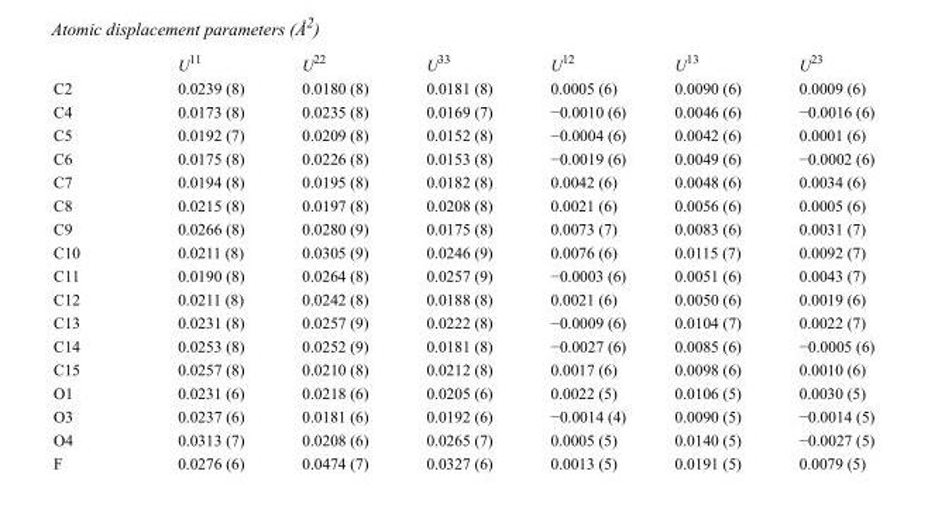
<table><thead><tr><td></td><td>U<sup>11</sup></td><td>U<sup>22</sup></td><td>U<sup>33</sup></td><td>U<sup>12</sup></td><td>U<sup>13</sup></td><td>U<sup>23</sup></td></tr></thead><tbody><tr><td>C2</td><td>0.0239 (8)</td><td>0.0180 (8)</td><td>0.0181 (8)</td><td>0.0005 (6)</td><td>0.0090 (6)</td><td>0.0009 (6)</td></tr><tr><td>C4</td><td>0.0173 (8)</td><td>0.0235 (8)</td><td>0.0169 (7)</td><td>−0.0010 (6)</td><td>0.0046 (6)</td><td>−0.0016 (6)</td></tr><tr><td>C5</td><td>0.0192 (7)</td><td>0.0209 (8)</td><td>0.0152 (8)</td><td>−0.0004 (6)</td><td>0.0042 (6)</td><td>0.0001 (6)</td></tr><tr><td>C6</td><td>0.0175 (8)</td><td>0.0226 (8)</td><td>0.0153 (8)</td><td>−0.0019 (6)</td><td>0.0049 (6)</td><td>−0.0002 (6)</td></tr><tr><td>C7</td><td>0.0194 (8)</td><td>0.0195 (8)</td><td>0.0182 (8)</td><td>0.0042 (6)</td><td>0.0048 (6)</td><td>0.0034 (6)</td></tr><tr><td>C8</td><td>0.0215 (8)</td><td>0.0197 (8)</td><td>0.0208 (8)</td><td>0.0021 (6)</td><td>0.0056 (6)</td><td>0.0005 (6)</td></tr><tr><td>C9</td><td>0.0266 (8)</td><td>0.0280 (9)</td><td>0.0175 (8)</td><td>0.0073 (7)</td><td>0.0083 (6)</td><td>0.0031 (7)</td></tr><tr><td>C10</td><td>0.0211 (8)</td><td>0.0305 (9)</td><td>0.0246 (9)</td><td>0.0076 (6)</td><td>0.0115 (7)</td><td>0.0092 (7)</td></tr><tr><td>C11</td><td>0.0190 (8)</td><td>0.0264 (8)</td><td>0.0257 (9)</td><td>−0.0003 (6)</td><td>0.0051 (6)</td><td>0.0043 (7)</td></tr><tr><td>C12</td><td>0.0211 (8)</td><td>0.0242 (8)</td><td>0.0188 (8)</td><td>0.0021 (6)</td><td>0.0050 (6)</td><td>0.0019 (6)</td></tr><tr><td>C13</td><td>0.0231 (8)</td><td>0.0257 (9)</td><td>0.0222 (8)</td><td>−0.0009 (6)</td><td>0.0104 (7)</td><td>0.0022 (7)</td></tr><tr><td>C14</td><td>0.0253 (8)</td><td>0.0252 (9)</td><td>0.0181 (8)</td><td>−0.0027 (6)</td><td>0.0085 (6)</td><td>−0.0005 (6)</td></tr><tr><td>C15</td><td>0.0257 (8)</td><td>0.0210 (8)</td><td>0.0212 (8)</td><td>0.0017 (6)</td><td>0.0098 (6)</td><td>0.0010 (6)</td></tr><tr><td>O1</td><td>0.0231 (6)</td><td>0.0218 (6)</td><td>0.0205 (6)</td><td>0.0022 (5)</td><td>0.0106 (5)</td><td>0.0030 (5)</td></tr><tr><td>O3</td><td>0.0237 (6)</td><td>0.0181 (6)</td><td>0.0192 (6)</td><td>−0.0014 (4)</td><td>0.0090 (5)</td><td>−0.0014 (5)</td></tr><tr><td>O4</td><td>0.0313 (7)</td><td>0.0208 (6)</td><td>0.0265 (7)</td><td>0.0005 (5)</td><td>0.0140 (5)</td><td>−0.0027 (5)</td></tr><tr><td>F</td><td>0.0276 (6)</td><td>0.0474 (7)</td><td>0.0327 (6)</td><td>0.0013 (5)</td><td>0.0191 (5)</td><td>0.0079 (5)</td></tr></tbody></table>